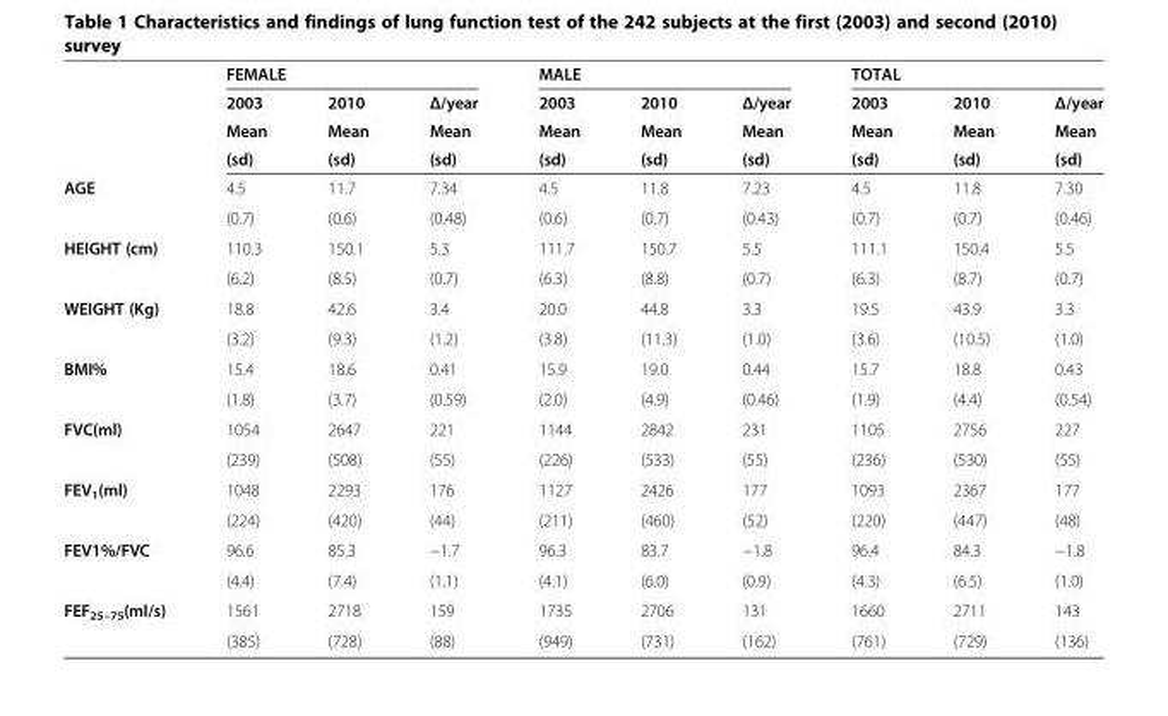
<table><thead><tr><td rowspan="4"></td><td colspan="3">FEMALE</td><td colspan="3">MALE</td><td colspan="3">TOTAL</td></tr><tr><td rowspan="3">2003 Mean (sd)</td><td rowspan="3">2010 Mean (sd)</td><td rowspan="3">Δ/year Mean (sd)</td><td rowspan="3">2003 Mean (sd)</td><td rowspan="3">2010 Mean (sd)</td><td rowspan="3">Δ/year Mean (sd)</td><td rowspan="3">2003 Mean (sd)</td><td rowspan="3">2010 Mean (sd)</td><td rowspan="3">Δ/year Mean (sd)</td></tr><tr></tr><tr></tr></thead><tbody><tr><td rowspan="2">AGE</td><td>4.5</td><td>11.7</td><td>7.34</td><td>4.5</td><td>11.8</td><td>7.23</td><td>4.5</td><td>11.8</td><td>7.30</td></tr><tr><td>(0.7)</td><td>(0.6)</td><td>(0.48)</td><td>(0.6)</td><td>(0.7)</td><td>(0.43)</td><td>(0.7)</td><td>(0.7)</td><td>(0.46)</td></tr><tr><td rowspan="2">HEIGHT (cm)</td><td>110.3</td><td>150.1</td><td>5.3</td><td>111.7</td><td>150.7</td><td>5.5</td><td>111.1</td><td>150.4</td><td>5.5</td></tr><tr><td>(6.2)</td><td>(8.5)</td><td>(0.7)</td><td>(6.3)</td><td>(8.8)</td><td>(0.7)</td><td>(6.3)</td><td>(8.7)</td><td>(0.7)</td></tr><tr><td rowspan="2">WEIGHT (Kg)</td><td>18.8</td><td>42.6</td><td>3.4</td><td>20.0</td><td>44.8</td><td>3.3</td><td>19.5</td><td>43.9</td><td>3.3</td></tr><tr><td>(3.2)</td><td>(9.3)</td><td>(1.2)</td><td>(3.8)</td><td>(11.3)</td><td>(1.0)</td><td>(3.6)</td><td>(10.5)</td><td>(1.0)</td></tr><tr><td rowspan="2">BMI%</td><td>15.4</td><td>18.6</td><td>0.41</td><td>15.9</td><td>19.0</td><td>0.44</td><td>15.7</td><td>18.8</td><td>0.43</td></tr><tr><td>(1.8)</td><td>(3.7)</td><td>(0.59)</td><td>(2.0)</td><td>(4.9)</td><td>(0.46)</td><td>(1.9)</td><td>(4.4)</td><td>(0.54)</td></tr><tr><td rowspan="2">FVC(ml)</td><td>1054</td><td>2647</td><td>221</td><td>1144</td><td>2842</td><td>231</td><td>1105</td><td>2756</td><td>227</td></tr><tr><td>(239)</td><td>(508)</td><td>(55)</td><td>(226)</td><td>(533)</td><td>(55)</td><td>(236)</td><td>(530)</td><td>(55)</td></tr><tr><td rowspan="2">FEV<sub>1</sub>(ml)</td><td>1048</td><td>2293</td><td>176</td><td>1127</td><td>2426</td><td>177</td><td>1093</td><td>2367</td><td>177</td></tr><tr><td>(224)</td><td>(420)</td><td>(44)</td><td>(211)</td><td>(460)</td><td>(52)</td><td>(220)</td><td>(447)</td><td>(48)</td></tr><tr><td rowspan="2">FEV1%/FVC</td><td>96.6</td><td>85.3</td><td>−1.7</td><td>96.3</td><td>83.7</td><td>−1.8</td><td>96.4</td><td>84.3</td><td>−1.8</td></tr><tr><td>(4.4)</td><td>(7.4)</td><td>(1.1)</td><td>(4.1)</td><td>(6.0)</td><td>(0.9)</td><td>(4.3)</td><td>(6.5)</td><td>(1.0)</td></tr><tr><td rowspan="2">FEF<sub>25–75</sub>(ml/s)</td><td>1561</td><td>2718</td><td>159</td><td>1735</td><td>2706</td><td>131</td><td>1660</td><td>2711</td><td>143</td></tr><tr><td>(385)</td><td>(728)</td><td>(88)</td><td>(949)</td><td>(731)</td><td>(162)</td><td>(761)</td><td>(729)</td><td>(136)</td></tr></tbody></table>